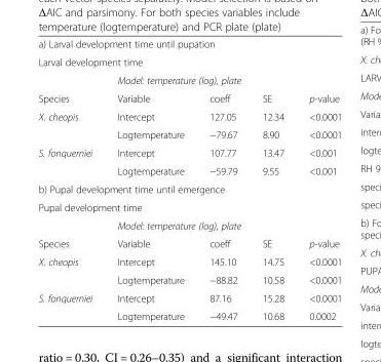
<table><tbody><tr><td colspan="5">a) Larval development time until pupation</td></tr><tr><td colspan="5">Larval development time</td></tr><tr><td></td><td colspan="4">Model: temperature (log), plate</td></tr><tr><td>Species</td><td>Variable</td><td>coeff</td><td>SE</td><td>p-value</td></tr><tr><td rowspan="2">X. cheopis</td><td>Intercept</td><td>127.05</td><td>12.34</td><td>&lt;0.0001</td></tr><tr><td>Logtemperature</td><td>−79.67</td><td>8.90</td><td>&lt;0.0001</td></tr><tr><td rowspan="2">S. fonquerniei</td><td>Intercept</td><td>107.77</td><td>13.47</td><td>&lt;0.001</td></tr><tr><td>Logtemperature</td><td>−59.79</td><td>9.55</td><td>&lt;0.001</td></tr><tr><td colspan="5">b) Pupal development time until emergence</td></tr><tr><td colspan="5">Pupal development time</td></tr><tr><td></td><td colspan="4">Model: temperature (log), plate</td></tr><tr><td>Species</td><td>Variable</td><td>coeff</td><td>SE</td><td>p-value</td></tr><tr><td rowspan="2">X. cheopis</td><td>Intercept</td><td>145.10</td><td>14.75</td><td>&lt;0.0001</td></tr><tr><td>Logtemperature</td><td>−88.82</td><td>10.58</td><td>&lt;0.0001</td></tr><tr><td rowspan="2">S. fonquerniei</td><td>Intercept</td><td>87.16</td><td>15.28</td><td>&lt;0.0001</td></tr><tr><td>Logtemperature</td><td>−49.47</td><td>10.68</td><td>0.0002</td></tr></tbody></table>